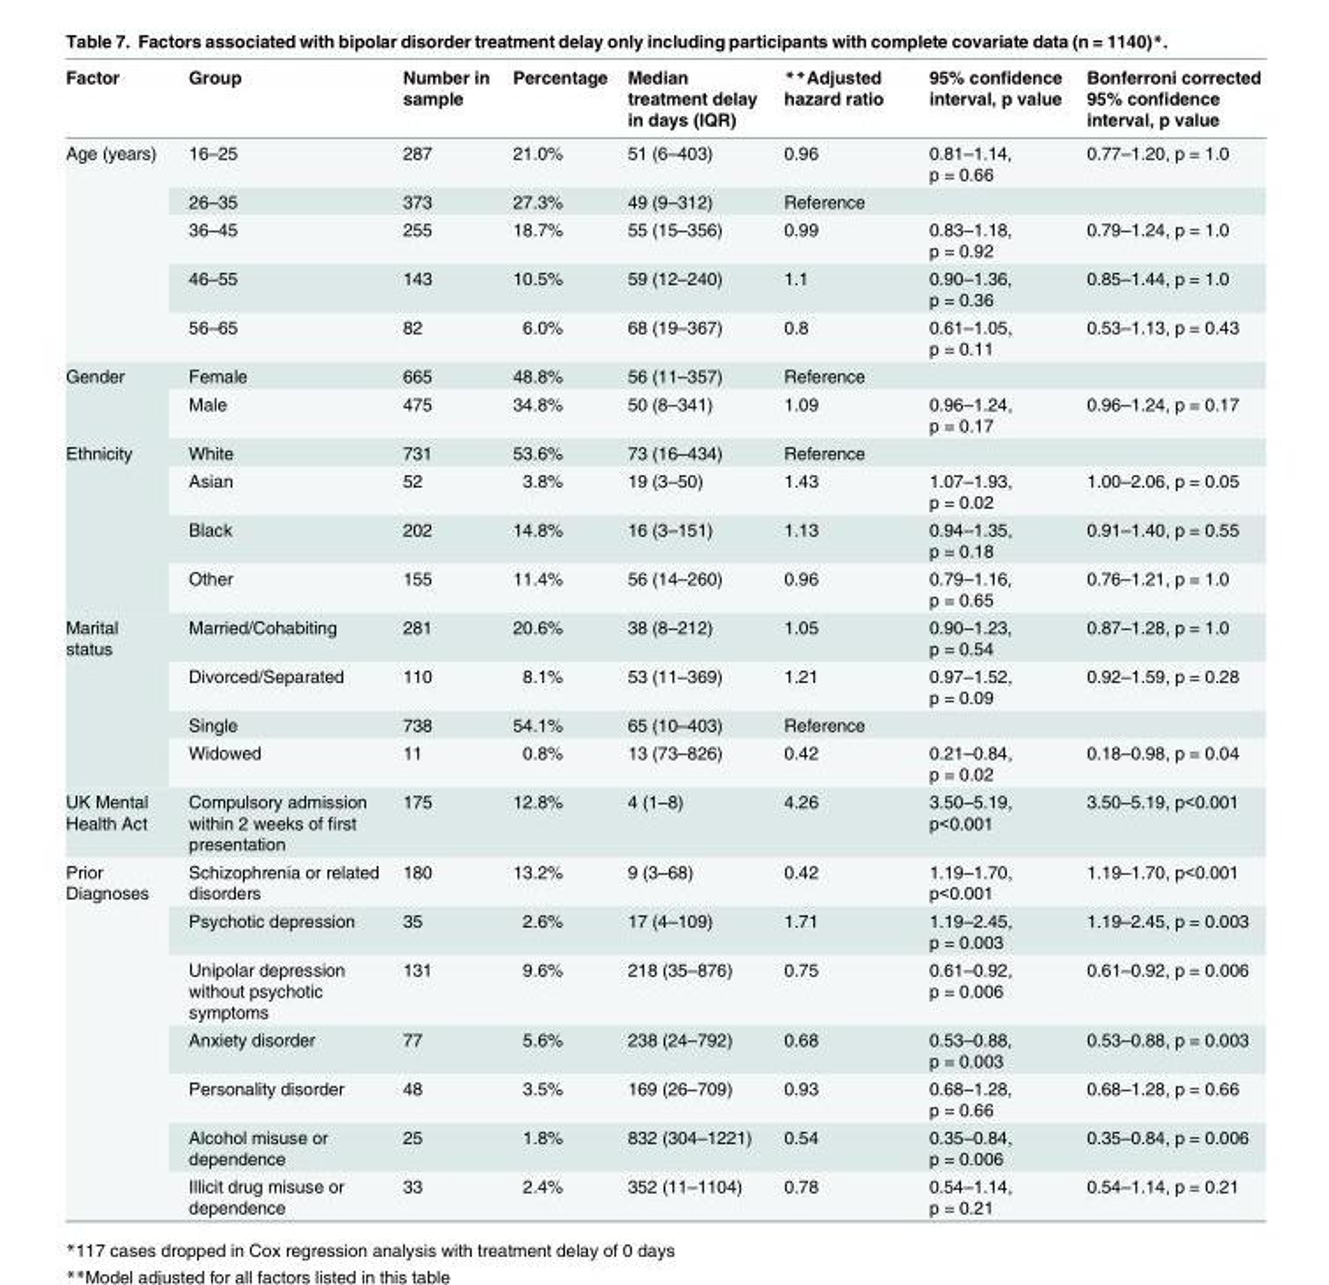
<table><thead><tr><td>Factor</td><td>Group</td><td>Number in sample</td><td>Percentage</td><td>Median treatment delay in days (IQR)</td><td>**Adjusted hazard ratio</td><td>95% confidence interval, p value</td><td>Bonferroni corrected 95% confidence interval, p value</td></tr></thead><tbody><tr><td rowspan="5">Age (years)</td><td>16–25</td><td>287</td><td>21.0%</td><td>51 (6–403)</td><td>0.96</td><td>0.81–1.14, p = 0.66</td><td>0.77–1.20, p = 1.0</td></tr><tr><td>26–35</td><td>373</td><td>27.3%</td><td>49 (9–312)</td><td>Reference</td><td></td><td></td></tr><tr><td>36–45</td><td>255</td><td>18.7%</td><td>55 (15–356)</td><td>0.99</td><td>0.83–1.18, p = 0.92</td><td>0.79–1.24, p = 1.0</td></tr><tr><td>46–55</td><td>143</td><td>10.5%</td><td>59 (12–240)</td><td>1.1</td><td>0.90–1.36, p = 0.36</td><td>0.85–1.44, p = 1.0</td></tr><tr><td>56–65</td><td>82</td><td>6.0%</td><td>68 (19–367)</td><td>0.8</td><td>0.61–1.05, p = 0.11</td><td>0.53–1.13, p = 0.43</td></tr><tr><td rowspan="2">Gender</td><td>Female</td><td>665</td><td>48.8%</td><td>56 (11–357)</td><td>Reference</td><td></td><td></td></tr><tr><td>Male</td><td>475</td><td>34.8%</td><td>50 (8–341)</td><td>1.09</td><td>0.96–1.24, p = 0.17</td><td>0.96–1.24, p = 0.17</td></tr><tr><td rowspan="4">Ethnicity</td><td>White</td><td>731</td><td>53.6%</td><td>73 (16–434)</td><td>Reference</td><td></td><td></td></tr><tr><td>Asian</td><td>52</td><td>3.8%</td><td>19 (3–50)</td><td>1.43</td><td>1.07–1.93, p = 0.02</td><td>1.00–2.06, p = 0.05</td></tr><tr><td>Black</td><td>202</td><td>14.8%</td><td>16 (3–151)</td><td>1.13</td><td>0.94–1.35, p = 0.18</td><td>0.91–1.40, p = 0.55</td></tr><tr><td>Other</td><td>155</td><td>11.4%</td><td>56 (14–260)</td><td>0.96</td><td>0.79–1.16, p = 0.65</td><td>0.76–1.21, p = 1.0</td></tr><tr><td rowspan="4">Marital status</td><td>Married/Cohabiting</td><td>281</td><td>20.6%</td><td>38 (8–212)</td><td>1.05</td><td>0.90–1.23, p = 0.54</td><td>0.87–1.28, p = 1.0</td></tr><tr><td>Divorced/Separated</td><td>110</td><td>8.1%</td><td>53 (11–369)</td><td>1.21</td><td>0.97–1.52, p = 0.09</td><td>0.92–1.59, p = 0.28</td></tr><tr><td>Single</td><td>738</td><td>54.1%</td><td>65 (10–403)</td><td>Reference</td><td></td><td></td></tr><tr><td>Widowed</td><td>11</td><td>0.8%</td><td>13 (73–826)</td><td>0.42</td><td>0.21–0.84, p = 0.02</td><td>0.18–0.98, p = 0.04</td></tr><tr><td>UK Mental Health Act</td><td>Compulsory admission within 2 weeks of first presentation</td><td>175</td><td>12.8%</td><td>4 (1–8)</td><td>4.26</td><td>3.50–5.19, p&lt;0.001</td><td>3.50–5.19, p&lt;0.001</td></tr><tr><td rowspan="7">Prior Diagnoses</td><td>Schizophrenia or related disorders</td><td>180</td><td>13.2%</td><td>9 (3–68)</td><td>0.42</td><td>1.19–1.70, p&lt;0.001</td><td>1.19–1.70, p&lt;0.001</td></tr><tr><td>Psychotic depression</td><td>35</td><td>2.6%</td><td>17 (4–109)</td><td>1.71</td><td>1.19–2.45, p = 0.003</td><td>1.19–2.45, p = 0.003</td></tr><tr><td>Unipolar depression without psychotic symptoms</td><td>131</td><td>9.6%</td><td>218 (35–876)</td><td>0.75</td><td>0.61–0.92, p = 0.006</td><td>0.61–0.92, p = 0.006</td></tr><tr><td>Anxiety disorder</td><td>77</td><td>5.6%</td><td>238 (24–792)</td><td>0.68</td><td>0.53–0.88, p = 0.003</td><td>0.53–0.88, p = 0.003</td></tr><tr><td>Personality disorder</td><td>48</td><td>3.5%</td><td>169 (26–709)</td><td>0.93</td><td>0.68–1.28, p = 0.66</td><td>0.68–1.28, p = 0.66</td></tr><tr><td>Alcohol misuse or dependence</td><td>25</td><td>1.8%</td><td>832 (304–1221)</td><td>0.54</td><td>0.35–0.84, p = 0.006</td><td>0.35–0.84, p = 0.006</td></tr><tr><td>Illicit drug misuse or dependence</td><td>33</td><td>2.4%</td><td>352 (11–1104)</td><td>0.78</td><td>0.54–1.14, p = 0.21</td><td>0.54–1.14, p = 0.21</td></tr></tbody></table>